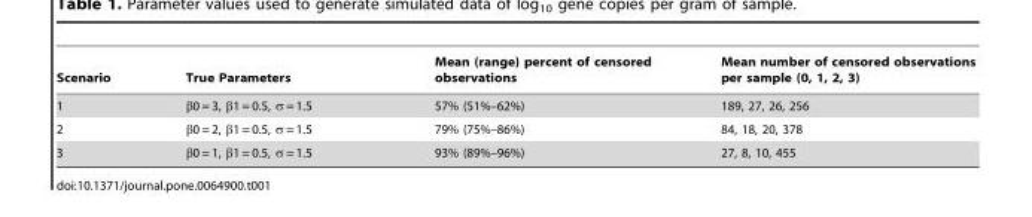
<table><thead><tr><td>Scenario</td><td>True Parameters</td><td>Mean (range) percent of censored observations</td><td>Mean number of censored observations per sample (0, 1, 2, 3)</td></tr></thead><tbody><tr><td>1</td><td>β0 = 3, β1 = 0.5, σ = 1.5</td><td>57% (51%–62%)</td><td>189, 27, 26, 256</td></tr><tr><td>2</td><td>β0 = 2, β1 = 0.5, σ = 1.5</td><td>79% (75%–86%)</td><td>84, 18, 20, 378</td></tr><tr><td>3</td><td>β0 = 1, β1 = 0.5, σ = 1.5</td><td>93% (89%–96%)</td><td>27, 8, 10, 455</td></tr></tbody></table>